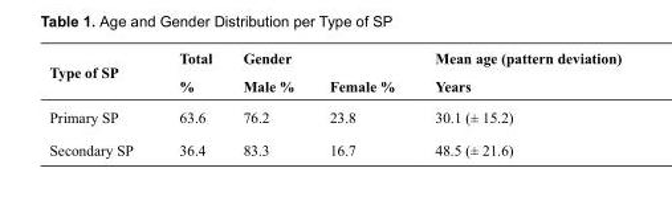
<table><thead><tr><td rowspan="2">Type of SP</td><td rowspan="2">Total %</td><td colspan="2">Gender</td><td rowspan="2">Mean age (pattern deviation) Years</td></tr><tr><td>Male %</td><td>Female %</td></tr></thead><tbody><tr><td>Primary SP</td><td>63.6</td><td>76.2</td><td>23.8</td><td>30.1 (± 15.2)</td></tr><tr><td>Secondary SP</td><td>36.4</td><td>83.3</td><td>16.7</td><td>48.5 (± 21.6)</td></tr></tbody></table>